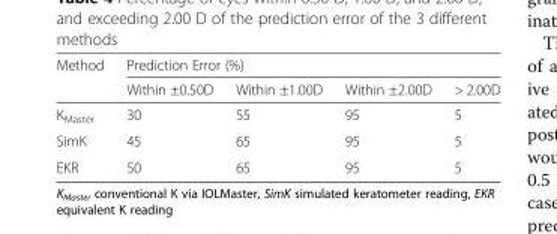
<table><thead><tr><td rowspan="2">Method</td><td colspan="4">Prediction Error (%)</td></tr><tr><td>Within ±0.50D</td><td>Within ±1.00D</td><td>Within ±2.00D</td><td>&gt; 2.00D</td></tr></thead><tbody><tr><td>K<sub>Master</sub></td><td>30</td><td>55</td><td>95</td><td>5</td></tr><tr><td>SimK</td><td>45</td><td>65</td><td>95</td><td>5</td></tr><tr><td>EKR</td><td>50</td><td>65</td><td>95</td><td>5</td></tr></tbody></table>